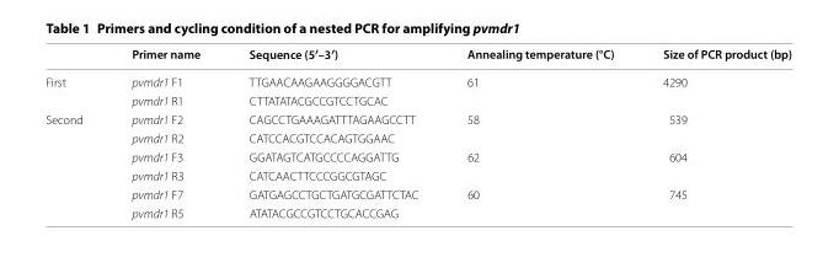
<table><thead><tr><td></td><td>Primer name</td><td>Sequence (5′–3′)</td><td>Annealing temperature (°C)</td><td>Size of PCR product (bp)</td></tr></thead><tbody><tr><td rowspan="2">First</td><td>pvmdr1 F1</td><td>TTGAACAAGAAGGGGACGTT</td><td rowspan="2">61</td><td rowspan="2">4290</td></tr><tr><td>pvmdr1 R1</td><td>CTTATATACGCCGTCCTGCAC</td></tr><tr><td rowspan="6">Second</td><td>pvmdr1 F2</td><td>CAGCCTGAAAGATTTAGAAGCCTT</td><td rowspan="2">58</td><td rowspan="2">539</td></tr><tr><td>pvmdr1 R2</td><td>CATCCACGTCCACAGTGGAAC</td></tr><tr><td>pvmdr1 F3</td><td>GGATAGTCATGCCCCAGGATTG</td><td rowspan="2">62</td><td rowspan="2">604</td></tr><tr><td>pvmdr1 R3</td><td>CATCAACTTCCCGGCGTAGC</td></tr><tr><td>pvmdr1 F7</td><td>GATGAGCCTGCTGATGCGATTCTAC</td><td rowspan="2">60</td><td rowspan="2">745</td></tr><tr><td>pvmdr1 R5</td><td>ATATACGCCGTCCTGCACCGAG</td></tr></tbody></table>